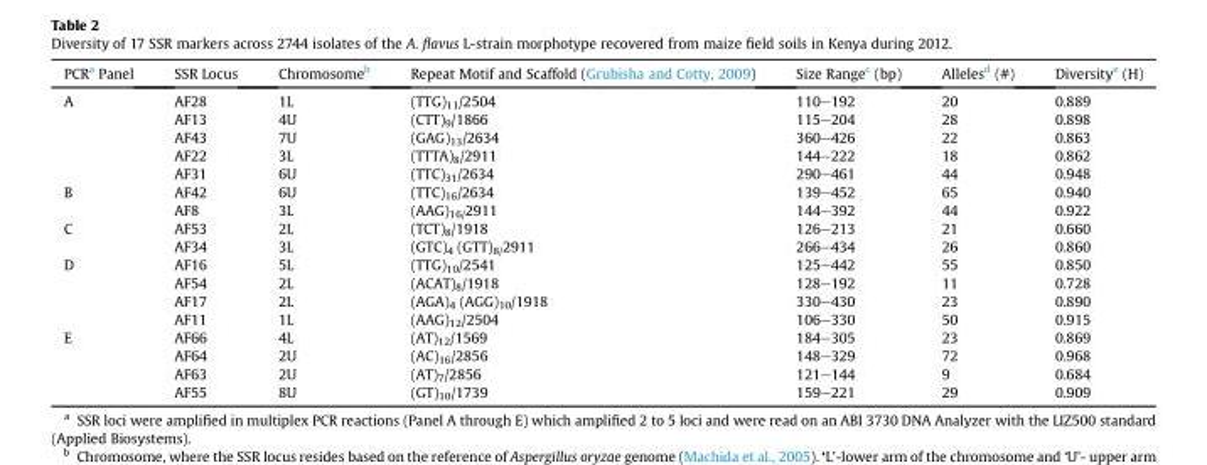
<table><thead><tr><td>PCR<sup>a</sup> Panel</td><td>SSR Locus</td><td>Chromosome<sup>b</sup></td><td>Repeat Motif and Scaffold (Grubisha and Cotty, 2009)</td><td>Size Range<sup>c</sup> (bp)</td><td>Alleles<sup>d</sup> (#)</td><td>Diversity<sup>e</sup> (H)</td></tr></thead><tbody><tr><td rowspan="5">A</td><td>AF28</td><td>1L</td><td>(TTG)<sub>11</sub>/2504</td><td>110–192</td><td>20</td><td>0.889</td></tr><tr><td>AF13</td><td>4U</td><td>(CTT)<sub>9</sub>/1866</td><td>115–204</td><td>28</td><td>0.898</td></tr><tr><td>AF43</td><td>7U</td><td>(GAG)<sub>13</sub>/2634</td><td>360–426</td><td>22</td><td>0.863</td></tr><tr><td>AF22</td><td>3L</td><td>(TTTA)<sub>8</sub>/2911</td><td>144–222</td><td>18</td><td>0.862</td></tr><tr><td>AF31</td><td>6U</td><td>(TTC)<sub>31</sub>/2634</td><td>290–461</td><td>44</td><td>0.948</td></tr><tr><td rowspan="2">B</td><td>AF42</td><td>6U</td><td>(TTC)<sub>16</sub>/2634</td><td>139–452</td><td>65</td><td>0.940</td></tr><tr><td>AF8</td><td>3L</td><td>(AAG)<sub>16/</sub>2911</td><td>144–392</td><td>44</td><td>0.922</td></tr><tr><td rowspan="2">C</td><td>AF53</td><td>2L</td><td>(TCT)<sub>8</sub>/1918</td><td>126–213</td><td>21</td><td>0.660</td></tr><tr><td>AF34</td><td>3L</td><td>(GTC)<sub>4</sub> (GTT)<sub>8/</sub>2911</td><td>266–434</td><td>26</td><td>0.860</td></tr><tr><td rowspan="4">D</td><td>AF16</td><td>5L</td><td>(TTG)<sub>10</sub>/2541</td><td>125–442</td><td>55</td><td>0.850</td></tr><tr><td>AF54</td><td>2L</td><td>(ACAT)<sub>8</sub>/1918</td><td>128–192</td><td>11</td><td>0.728</td></tr><tr><td>AF17</td><td>2L</td><td>(AGA)<sub>4</sub> (AGG)<sub>10</sub>/1918</td><td>330–430</td><td>23</td><td>0.890</td></tr><tr><td>AF11</td><td>1L</td><td>(AAG)<sub>12</sub>/2504</td><td>106–330</td><td>50</td><td>0.915</td></tr><tr><td rowspan="4">E</td><td>AF66</td><td>4L</td><td>(AT)<sub>12</sub>/1569</td><td>184–305</td><td>23</td><td>0.869</td></tr><tr><td>AF64</td><td>2U</td><td>(AC)<sub>16</sub>/2856</td><td>148–329</td><td>72</td><td>0.968</td></tr><tr><td>AF63</td><td>2U</td><td>(AT)<sub>7</sub>/2856</td><td>121–144</td><td>9</td><td>0.684</td></tr><tr><td>AF55</td><td>8U</td><td>(GT)<sub>10</sub>/1739</td><td>159–221</td><td>29</td><td>0.909</td></tr></tbody></table>